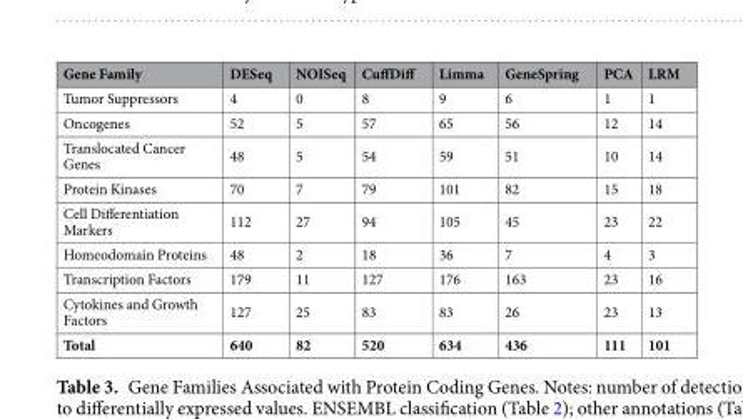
<table><thead><tr><td>Gene Family</td><td>DESeq</td><td>NOISeq</td><td>CuffDiff</td><td>Limma</td><td>GeneSpring</td><td>PCA</td><td>LRM</td></tr></thead><tbody><tr><td>Tumor Suppressors</td><td>4</td><td>0</td><td>8</td><td>9</td><td>6</td><td>1</td><td>1</td></tr><tr><td>Oncogenes</td><td>52</td><td>5</td><td>57</td><td>65</td><td>56</td><td>12</td><td>14</td></tr><tr><td>Translocated Cancer Genes</td><td>48</td><td>5</td><td>54</td><td>59</td><td>51</td><td>10</td><td>14</td></tr><tr><td>Protein Kinases</td><td>70</td><td>7</td><td>79</td><td>101</td><td>82</td><td>15</td><td>18</td></tr><tr><td>Cell Differentiation Markers</td><td>112</td><td>27</td><td>94</td><td>105</td><td>45</td><td>23</td><td>22</td></tr><tr><td>Homeodomain Proteins</td><td>48</td><td>2</td><td>18</td><td>36</td><td>7</td><td>4</td><td>3</td></tr><tr><td>Transcription Factors</td><td>179</td><td>11</td><td>127</td><td>176</td><td>163</td><td>23</td><td>16</td></tr><tr><td>Cytokines and Growth Factors</td><td>127</td><td>25</td><td>83</td><td>83</td><td>26</td><td>23</td><td>13</td></tr><tr><td>Total</td><td>640</td><td>82</td><td>520</td><td>634</td><td>436</td><td>111</td><td>101</td></tr></tbody></table>